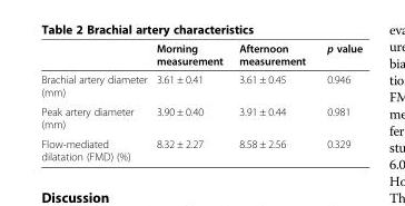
<table><thead><tr><td></td><td>Morning measurement</td><td>Afternoon measurement</td><td>p value</td></tr></thead><tbody><tr><td>Brachial artery diameter (mm)</td><td>3.61 ± 0.41</td><td>3.61 ± 0.45</td><td>0.946</td></tr><tr><td>Peak artery diameter (mm)</td><td>3.90 ± 0.40</td><td>3.91 ± 0.44</td><td>0.981</td></tr><tr><td>Flow-mediated dilatation (FMD) (%)</td><td>8.32 ± 2.27</td><td>8.58 ± 2.56</td><td>0.329</td></tr></tbody></table>